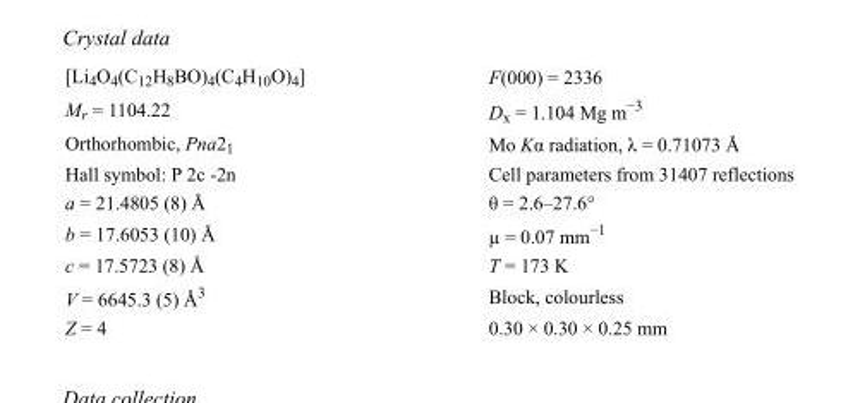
<table><tbody><tr><td>[Li<sub>4</sub>O<sub>4</sub>(C<sub>12</sub>H<sub>8</sub>BO)<sub>4</sub>(C<sub>4</sub>H<sub>10</sub>O)<sub>4</sub>]</td><td>F(000) = 2336</td></tr><tr><td>M<sub>r</sub> = 1104.22</td><td>D<sub>x</sub> = 1.104 Mg m<sup>−3</sup></td></tr><tr><td>Orthorhombic, Pna2<sub>1</sub></td><td>Mo Kα radiation, λ = 0.71073 Å</td></tr><tr><td>Hall symbol: P 2c -2n</td><td>Cell parameters from 31407 reflections</td></tr><tr><td>a = 21.4805 (8) Å</td><td>θ = 2.6–27.6°</td></tr><tr><td>b = 17.6053 (10) Å</td><td>µ = 0.07 mm<sup>−1</sup></td></tr><tr><td>c = 17.5723 (8) Å</td><td>T = 173 K</td></tr><tr><td>V = 6645.3 (5) Å<sup>3</sup></td><td>Block, colourless</td></tr><tr><td>Z = 4</td><td>0.30 × 0.30 × 0.25 mm</td></tr></tbody></table>